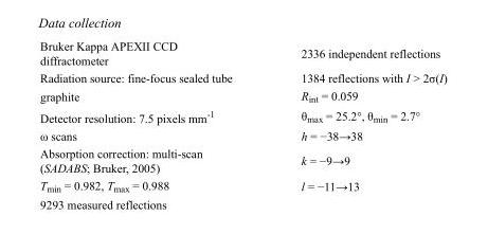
<table><tbody><tr><td>Bruker Kappa APEXII CCD diffractometer</td><td>2336 independent reflections</td></tr><tr><td>Radiation source: fine-focus sealed tube</td><td>1384 reflections with I &gt; 2σ(I)</td></tr><tr><td>graphite</td><td>R<sub>int</sub> = 0.059</td></tr><tr><td>Detector resolution: 7.5 pixels mm<sup>-1</sup></td><td>θ<sub>max</sub> = 25.2°, θ<sub>min</sub> = 2.7°</td></tr><tr><td>ω scans</td><td>h = −38→38</td></tr><tr><td>Absorption correction: multi-scan (SADABS; Bruker, 2005)</td><td>k = −9→9</td></tr><tr><td>T<sub>min</sub> = 0.982, T<sub>max</sub> = 0.988</td><td>l = −11→13</td></tr><tr><td>9293 measured reflections</td><td></td></tr></tbody></table>